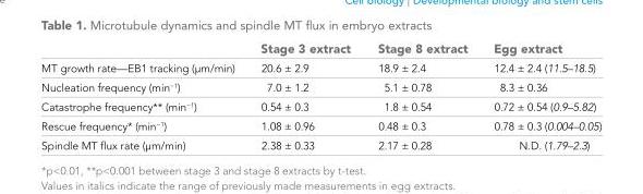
<table><thead><tr><td></td><td>Stage 3 extract</td><td>Stage 8 extract</td><td>Egg extract</td></tr></thead><tbody><tr><td>MT growth rate—EB1 tracking (µm/min)</td><td>20.6 ± 2.9</td><td>18.9 ± 2.4</td><td>12.4 ± 2.4 (11.5–18.5)</td></tr><tr><td>Nucleation frequency (min<sup>−1</sup>)</td><td>7.0 ± 1.2</td><td>5.1 ± 0.78</td><td>8.3 ± 0.36</td></tr><tr><td>Catastrophe frequency** (min<sup>−1</sup>)</td><td>0.54 ± 0.3</td><td>1.8 ± 0.54</td><td>0.72 ± 0.54 (0.9–5.82)</td></tr><tr><td>Rescue frequency* (min<sup>−1</sup>)</td><td>1.08 ± 0.96</td><td>0.48 ± 0.3</td><td>0.78 ± 0.3 (0.004–0.05)</td></tr><tr><td>Spindle MT flux rate (µm/min)</td><td>2.38 ± 0.33</td><td>2.17 ± 0.28</td><td>N.D. (1.79–2.3)</td></tr></tbody></table>